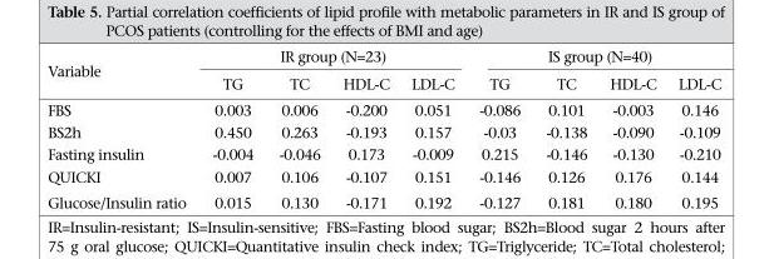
<table><thead><tr><td rowspan="2">Variable</td><td colspan="4">IR group (N=23)</td><td colspan="4">IS group (N=40)</td></tr><tr><td>TG</td><td>TC</td><td>HDL-C</td><td>LDL-C</td><td>TG</td><td>TC</td><td>HDL-C</td><td>LDL-C</td></tr></thead><tbody><tr><td>FBS</td><td>0.003</td><td>0.006</td><td>-0.200</td><td>0.051</td><td>-0.086</td><td>0.101</td><td>-0.003</td><td>0.146</td></tr><tr><td>BS2h</td><td>0.450</td><td>0.263</td><td>-0.193</td><td>0.157</td><td>-0.03</td><td>-0.138</td><td>-0.090</td><td>-0.109</td></tr><tr><td>Fasting insulin</td><td>-0.004</td><td>-0.046</td><td>0.173</td><td>-0.009</td><td>0.215</td><td>-0.146</td><td>-0.130</td><td>-0.210</td></tr><tr><td>QUICKI</td><td>0.007</td><td>0.106</td><td>-0.107</td><td>0.151</td><td>-0.146</td><td>0.126</td><td>0.176</td><td>0.144</td></tr><tr><td>Glucose/Insulin ratio</td><td>0.015</td><td>0.130</td><td>-0.171</td><td>0.192</td><td>-0.127</td><td>0.181</td><td>0.180</td><td>0.195</td></tr></tbody></table>